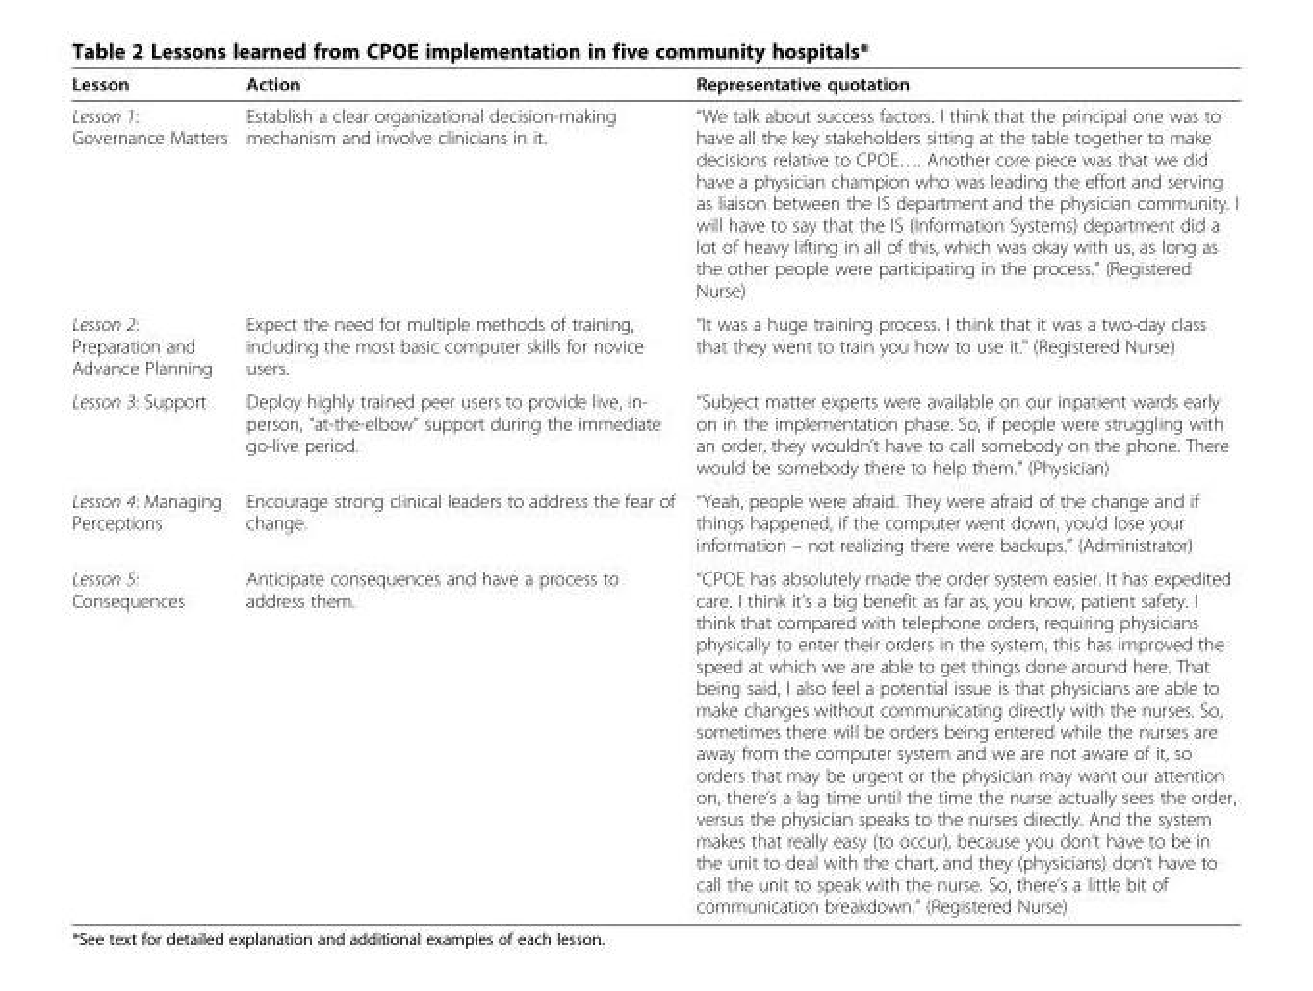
<table><thead><tr><td>Lesson</td><td>Action</td><td>Representative quotation</td></tr></thead><tbody><tr><td>Lesson 1: Governance Matters</td><td>Establish a clear organizational decision-making mechanism and involve clinicians in it.</td><td>“We talk about success factors. I think that the principal one was to have all the key stakeholders sitting at the table together to make decisions relative to CPOE…. Another core piece was that we did have a physician champion who was leading the effort and serving as liaison between the IS department and the physician community. I will have to say that the IS (Information Systems) department did a lot of heavy lifting in all of this, which was okay with us, as long as the other people were participating in the process.” (Registered Nurse)</td></tr><tr><td>Lesson 2: Preparation and Advance Planning</td><td>Expect the need for multiple methods of training, including the most basic computer skills for novice users.</td><td>“It was a huge training process. I think that it was a two-day class that they went to train you how to use it.&quot; (Registered Nurse)</td></tr><tr><td>Lesson 3: Support</td><td>Deploy highly trained peer users to provide live, in- person, &quot;at-the-elbow&quot; support during the immediate go-live period.</td><td>“Subject matter experts were available on our inpatient wards early on in the implementation phase. So, if people were struggling with an order, they wouldn’t have to call somebody on the phone. There would be somebody there to help them.” (Physician)</td></tr><tr><td>Lesson 4: Managing Perceptions</td><td>Encourage strong clinical leaders to address the fear of change.</td><td>“Yeah, people were afraid. They were afraid of the change and if things happened, if the computer went down, you’d lose your information – not realizing there were backups.” (Administrator)</td></tr><tr><td>Lesson 5: Consequences</td><td>Anticipate consequences and have a process to address them.</td><td>“CPOE has absolutely made the order system easier. It has expedited care. I think it’s a big benefit as far as, you know, patient safety. I think that compared with telephone orders, requiring physicians physically to enter their orders in the system, this has improved the speed at which we are able to get things done around here. That being said, I also feel a potential issue is that physicians are able to make changes without communicating directly with the nurses. So, sometimes there will be orders being entered while the nurses are away from the computer system and we are not aware of it, so orders that may be urgent or the physician may want our attention on, there’s a lag time until the time the nurse actually sees the order, versus the physician speaks to the nurses directly. And the system makes that really easy (to occur), because you don’t have to be in the unit to deal with the chart, and they (physicians) don’t have to call the unit to speak with the nurse. So, there’s a little bit of communication breakdown.” (Registered Nurse)</td></tr></tbody></table>